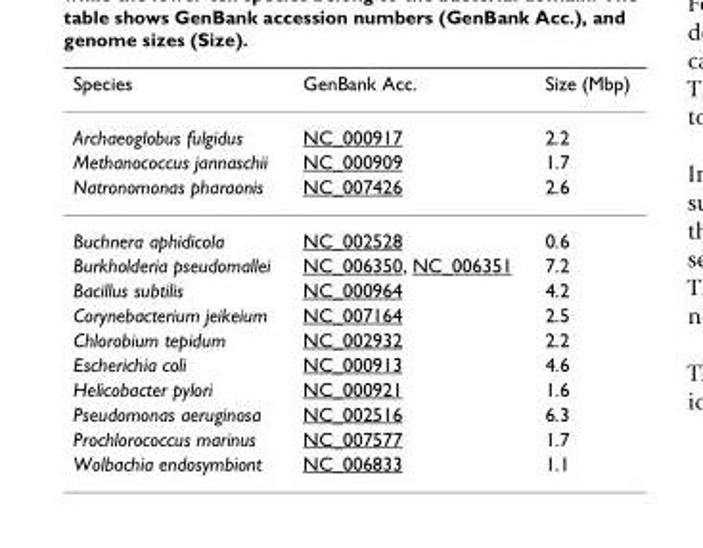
<table><thead><tr><td>Species</td><td>GenBank Acc.</td><td>Size (Mbp)</td></tr></thead><tbody><tr><td>Archaeoglobus fulgidus</td><td>NC_000917</td><td>2.2</td></tr><tr><td>Methanococcus jannaschii</td><td>NC_000909</td><td>1.7</td></tr><tr><td>Natronomonas pharaonis</td><td>NC_007426</td><td>2.6</td></tr><tr><td>Buchnera aphidicola</td><td>NC_002528</td><td>0.6</td></tr><tr><td>Burkholderia pseudomallei</td><td>NC_006350, NC_006351</td><td>7.2</td></tr><tr><td>Bacillus subtilis</td><td>NC_000964</td><td>4.2</td></tr><tr><td>Corynebacterium jeikeium</td><td>NC_007164</td><td>2.5</td></tr><tr><td>Chlorobium tepidum</td><td>NC_002932</td><td>2.2</td></tr><tr><td>Escherichia coli</td><td>NC_000913</td><td>4.6</td></tr><tr><td>Helicobacter pylori</td><td>NC_000921</td><td>1.6</td></tr><tr><td>Pseudomonas aeruginosa</td><td>NC_002516</td><td>6.3</td></tr><tr><td>Prochlorococcus marinus</td><td>NC_007577</td><td>1.7</td></tr><tr><td>Wolbachia endosymbiont</td><td>NC_006833</td><td>1.1</td></tr></tbody></table>